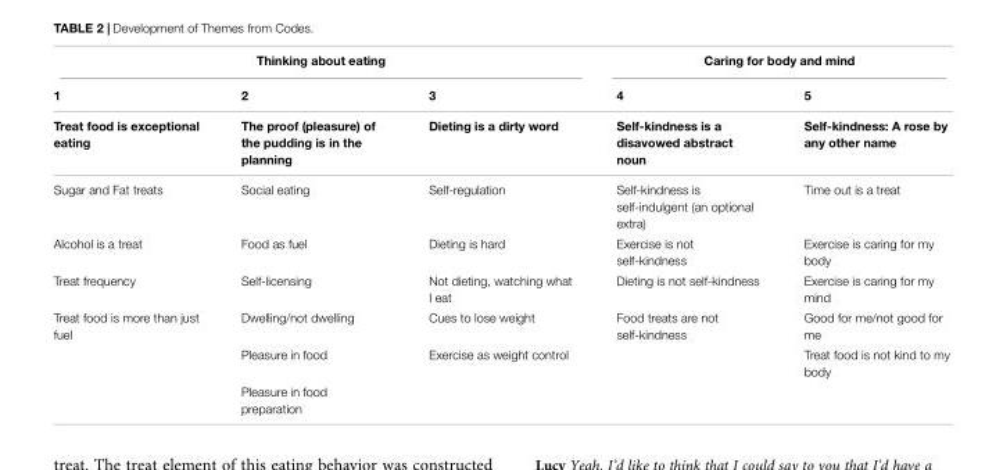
<table><thead><tr><td colspan="3">Thinking about eating</td><td colspan="2">Caring for body and mind</td></tr><tr><td rowspan="2">1 Treat food is exceptional eating</td><td rowspan="2">2 The proof (pleasure) of the pudding is in the planning</td><td rowspan="2">3 Dieting is a dirty word</td><td rowspan="2">4 Self-kindness is a disavowed abstract noun</td><td rowspan="2">5 Self-kindness: A rose by any other name</td></tr><tr></tr></thead><tbody><tr><td>Sugar and Fat treats</td><td>Social eating</td><td>Self-regulation</td><td>Self-kindness is self-indulgent (an optional extra)</td><td>Time out is a treat</td></tr><tr><td>Alcohol is a treat</td><td>Food as fuel</td><td>Dieting is hard</td><td>Exercise is not self-kindness</td><td>Exercise is caring for my body</td></tr><tr><td>Treat frequency</td><td>Self-licensing</td><td>Not dieting, watching what I eat</td><td>Dieting is not self-kindness</td><td>Exercise is caring for my mind</td></tr><tr><td rowspan="3">Treat food is more than just fuel</td><td>Dwelling/not dwelling</td><td>Cues to lose weight</td><td>Food treats are not self-kindness</td><td>Good for me/not good for me</td></tr><tr><td>Pleasure in food</td><td>Exercise as weight control</td><td></td><td>Treat food is not kind to my body</td></tr><tr><td>Pleasure in food preparation</td><td></td><td></td><td></td></tr></tbody></table>